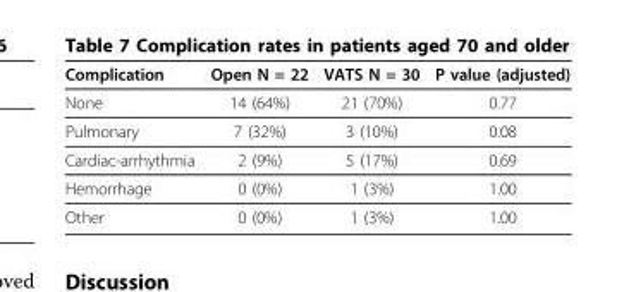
<table><thead><tr><td>Complication</td><td>Open N = 22</td><td>VATS N = 30</td><td>P value (adjusted)</td></tr></thead><tbody><tr><td>None</td><td>14 (64%)</td><td>21 (70%)</td><td>0.77</td></tr><tr><td>Pulmonary</td><td>7 (32%)</td><td>3 (10%)</td><td>0.08</td></tr><tr><td>Cardiac-arrhythmia</td><td>2 (9%)</td><td>5 (17%)</td><td>0.69</td></tr><tr><td>Hemorrhage</td><td>0 (0%)</td><td>1 (3%)</td><td>1.00</td></tr><tr><td>Other</td><td>0 (0%)</td><td>1 (3%)</td><td>1.00</td></tr></tbody></table>